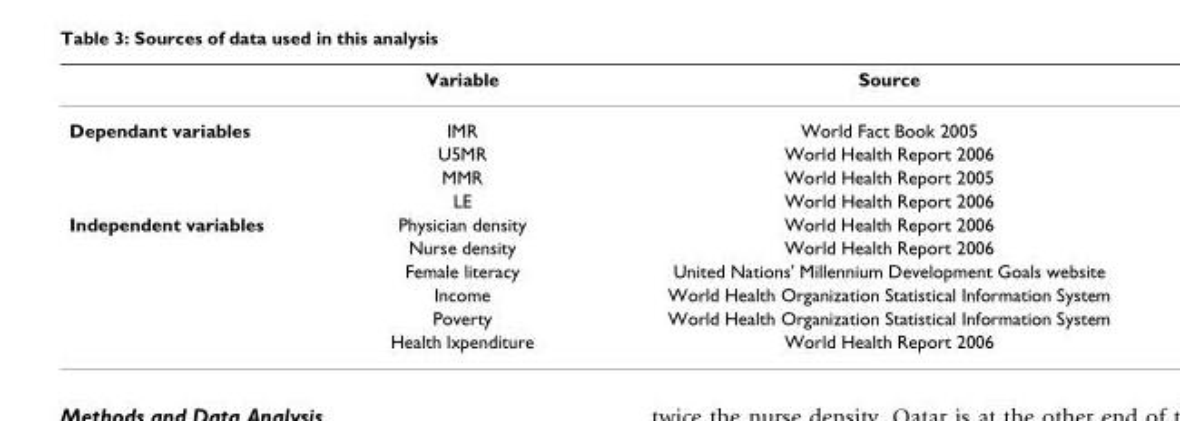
<table><thead><tr><td></td><td>Variable</td><td>Source</td></tr></thead><tbody><tr><td rowspan="4">Dependant variables</td><td>IMR</td><td>World Fact Book 2005</td></tr><tr><td>U5MR</td><td>World Health Report 2006</td></tr><tr><td>MMR</td><td>World Health Report 2005</td></tr><tr><td>LE</td><td>World Health Report 2006</td></tr><tr><td rowspan="6">Independent variables</td><td>Physician density</td><td>World Health Report 2006</td></tr><tr><td>Nurse density</td><td>World Health Report 2006</td></tr><tr><td>Female literacy</td><td>United Nations&#x27; Millennium Development Goals website</td></tr><tr><td>Income</td><td>World Health Organization Statistical Information System</td></tr><tr><td>Poverty</td><td>World Health Organization Statistical Information System</td></tr><tr><td>Health lxpenditure</td><td>World Health Report 2006</td></tr></tbody></table>